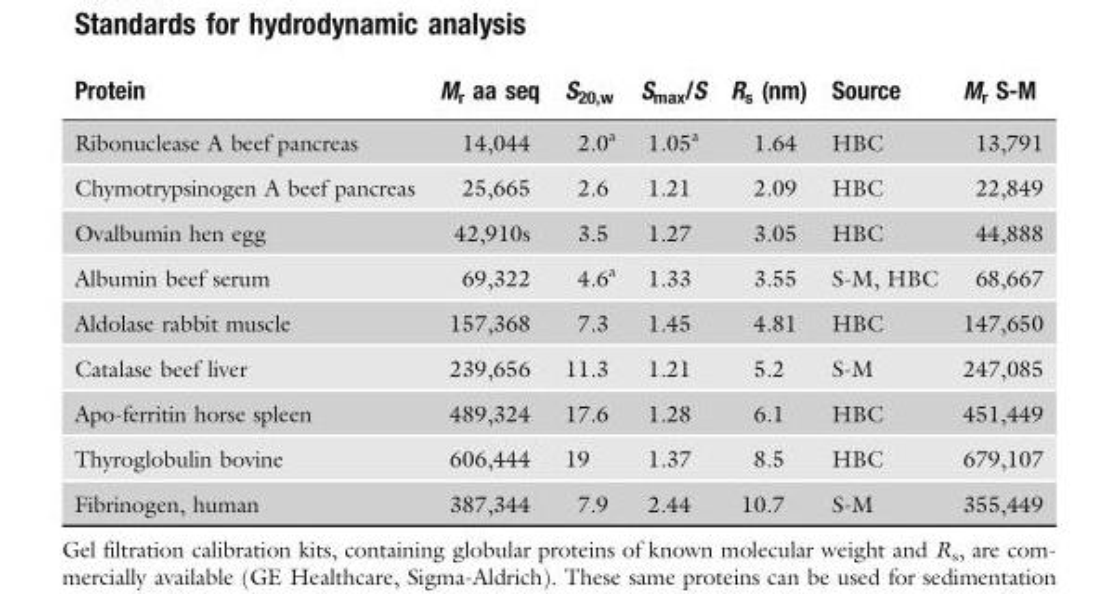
<table><thead><tr><td>Protein</td><td>M<sub>r</sub> aa seq</td><td>S<sub>20,w</sub></td><td>S<sub>max</sub>/S</td><td>R<sub>s</sub> (nm)</td><td>Source</td><td>M<sub>r</sub> S-M</td></tr></thead><tbody><tr><td>Ribonuclease A beef pancreas</td><td>14,044</td><td>2.0<sup>a</sup></td><td>1.05<sup>a</sup></td><td>1.64</td><td>HBC</td><td>13,791</td></tr><tr><td>Chymotrypsinogen A beef pancreas</td><td>25,665</td><td>2.6</td><td>1.21</td><td>2.09</td><td>HBC</td><td>22,849</td></tr><tr><td>Ovalbumin hen egg</td><td>42,910s</td><td>3.5</td><td>1.27</td><td>3.05</td><td>HBC</td><td>44,888</td></tr><tr><td>Albumin beef serum</td><td>69,322</td><td>4.6<sup>a</sup></td><td>1.33</td><td>3.55</td><td>S-M, HBC</td><td>68,667</td></tr><tr><td>Aldolase rabbit muscle</td><td>157,368</td><td>7.3</td><td>1.45</td><td>4.81</td><td>HBC</td><td>147,650</td></tr><tr><td>Catalase beef liver</td><td>239,656</td><td>11.3</td><td>1.21</td><td>5.2</td><td>S-M</td><td>247,085</td></tr><tr><td>Apo-ferritin horse spleen</td><td>489,324</td><td>17.6</td><td>1.28</td><td>6.1</td><td>HBC</td><td>451,449</td></tr><tr><td>Thyroglobulin bovine</td><td>606,444</td><td>19</td><td>1.37</td><td>8.5</td><td>HBC</td><td>679,107</td></tr><tr><td>Fibrinogen, human</td><td>387,344</td><td>7.9</td><td>2.44</td><td>10.7</td><td>S-M</td><td>355,449</td></tr></tbody></table>